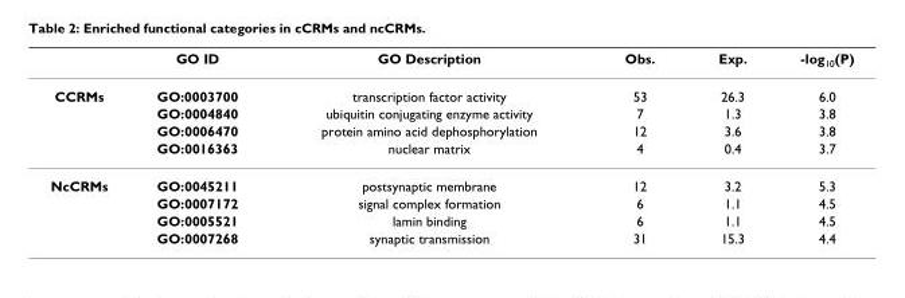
<table><thead><tr><td></td><td>GO ID</td><td>GO Description</td><td>Obs.</td><td>Exp.</td><td>-log<sub>10</sub>(P)</td></tr></thead><tbody><tr><td rowspan="4">CCRMs</td><td>GO:0003700</td><td>transcription factor activity</td><td>53</td><td>26.3</td><td>6.0</td></tr><tr><td>GO:0004840</td><td>ubiquitin conjugating enzyme activity</td><td>7</td><td>1.3</td><td>3.8</td></tr><tr><td>GO:0006470</td><td>protein amino acid dephosphorylation</td><td>12</td><td>3.6</td><td>3.8</td></tr><tr><td>GO:0016363</td><td>nuclear matrix</td><td>4</td><td>0.4</td><td>3.7</td></tr><tr><td rowspan="4">NcCRMs</td><td>GO:0045211</td><td>postsynaptic membrane</td><td>12</td><td>3.2</td><td>5.3</td></tr><tr><td>GO:0007172</td><td>signal complex formation</td><td>6</td><td>1.1</td><td>4.5</td></tr><tr><td>GO:0005521</td><td>lamin binding</td><td>6</td><td>1.1</td><td>4.5</td></tr><tr><td>GO:0007268</td><td>synaptic transmission</td><td>31</td><td>15.3</td><td>4.4</td></tr></tbody></table>